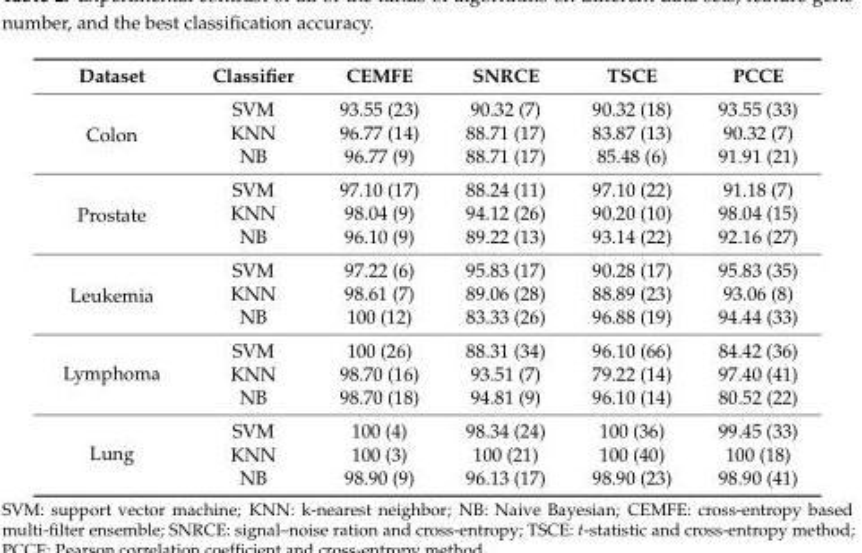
<table><thead><tr><td>Dataset</td><td>Classifier</td><td>CEMFE</td><td>SNRCE</td><td>TSCE</td><td>PCCE</td></tr></thead><tbody><tr><td rowspan="3">Colon</td><td>SVM</td><td>93.55 (23)</td><td>90.32 (7)</td><td>90.32 (18)</td><td>93.55 (33)</td></tr><tr><td>KNN</td><td>96.77 (14)</td><td>88.71 (17)</td><td>83.87 (13)</td><td>90.32 (7)</td></tr><tr><td>NB</td><td>96.77 (9)</td><td>88.71 (17)</td><td>85.48 (6)</td><td>91.91 (21)</td></tr><tr><td rowspan="3">Prostate</td><td>SVM</td><td>97.10 (17)</td><td>88.24 (11)</td><td>97.10 (22)</td><td>91.18 (7)</td></tr><tr><td>KNN</td><td>98.04 (9)</td><td>94.12 (26)</td><td>90.20 (10)</td><td>98.04 (15)</td></tr><tr><td>NB</td><td>96.10 (9)</td><td>89.22 (13)</td><td>93.14 (22)</td><td>92.16 (27)</td></tr><tr><td rowspan="3">Leukemia</td><td>SVM</td><td>97.22 (6)</td><td>95.83 (17)</td><td>90.28 (17)</td><td>95.83 (35)</td></tr><tr><td>KNN</td><td>98.61 (7)</td><td>89.06 (28)</td><td>88.89 (23)</td><td>93.06 (8)</td></tr><tr><td>NB</td><td>100 (12)</td><td>83.33 (26)</td><td>96.88 (19)</td><td>94.44 (33)</td></tr><tr><td rowspan="3">Lymphoma</td><td>SVM</td><td>100 (26)</td><td>88.31 (34)</td><td>96.10 (66)</td><td>84.42 (36)</td></tr><tr><td>KNN</td><td>98.70 (16)</td><td>93.51 (7)</td><td>79.22 (14)</td><td>97.40 (41)</td></tr><tr><td>NB</td><td>98.70 (18)</td><td>94.81 (9)</td><td>96.10 (14)</td><td>80.52 (22)</td></tr><tr><td rowspan="3">Lung</td><td>SVM</td><td>100 (4)</td><td>98.34 (24)</td><td>100 (36)</td><td>99.45 (33)</td></tr><tr><td>KNN</td><td>100 (3)</td><td>100 (21)</td><td>100 (40)</td><td>100 (18)</td></tr><tr><td>NB</td><td>98.90 (9)</td><td>96.13 (17)</td><td>98.90 (23)</td><td>98.90 (41)</td></tr></tbody></table>